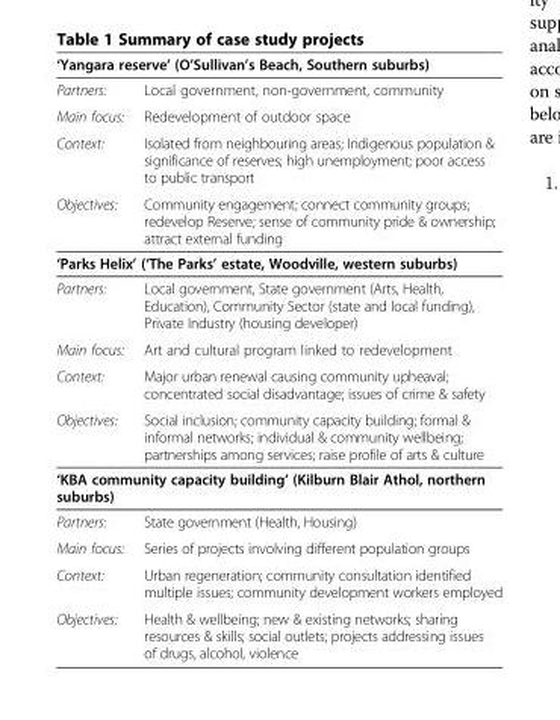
<table><thead><tr><td colspan="2">‘Yangara reserve’ (O’Sullivan’s Beach, Southern suburbs)</td></tr><tr><td>Partners:</td><td>Local government, non-government, community</td></tr></thead><tbody><tr><td>Main focus:</td><td>Redevelopment of outdoor space</td></tr><tr><td>Context:</td><td>Isolated from neighbouring areas; Indigenous population &amp; significance of reserves; high unemployment; poor access to public transport</td></tr><tr><td>Objectives:</td><td>Community engagement; connect community groups; redevelop Reserve; sense of community pride &amp; ownership; attract external funding</td></tr><tr><td colspan="2">‘Parks Helix’ (‘The Parks’ estate, Woodville, western suburbs)</td></tr><tr><td>Partners:</td><td>Local government, State government (Arts, Health, Education), Community Sector (state and local funding), Private Industry (housing developer)</td></tr><tr><td>Main focus:</td><td>Art and cultural program linked to redevelopment</td></tr><tr><td>Context:</td><td>Major urban renewal causing community upheaval; concentrated social disadvantage; issues of crime &amp; safety</td></tr><tr><td>Objectives:</td><td>Social inclusion; community capacity building; formal &amp; informal networks; individual &amp; community wellbeing; partnerships among services; raise profile of arts &amp; culture</td></tr><tr><td colspan="2">‘KBA community capacity building’ (Kilburn Blair Athol, northern suburbs)</td></tr><tr><td>Partners:</td><td>State government (Health, Housing)</td></tr><tr><td>Main focus:</td><td>Series of projects involving different population groups</td></tr><tr><td>Context:</td><td>Urban regeneration; community consultation identified multiple issues; community development workers employed</td></tr><tr><td>Objectives:</td><td>Health &amp; wellbeing; new &amp; existing networks; sharing resources &amp; skills; social outlets; projects addressing issues of drugs, alcohol, violence</td></tr></tbody></table>